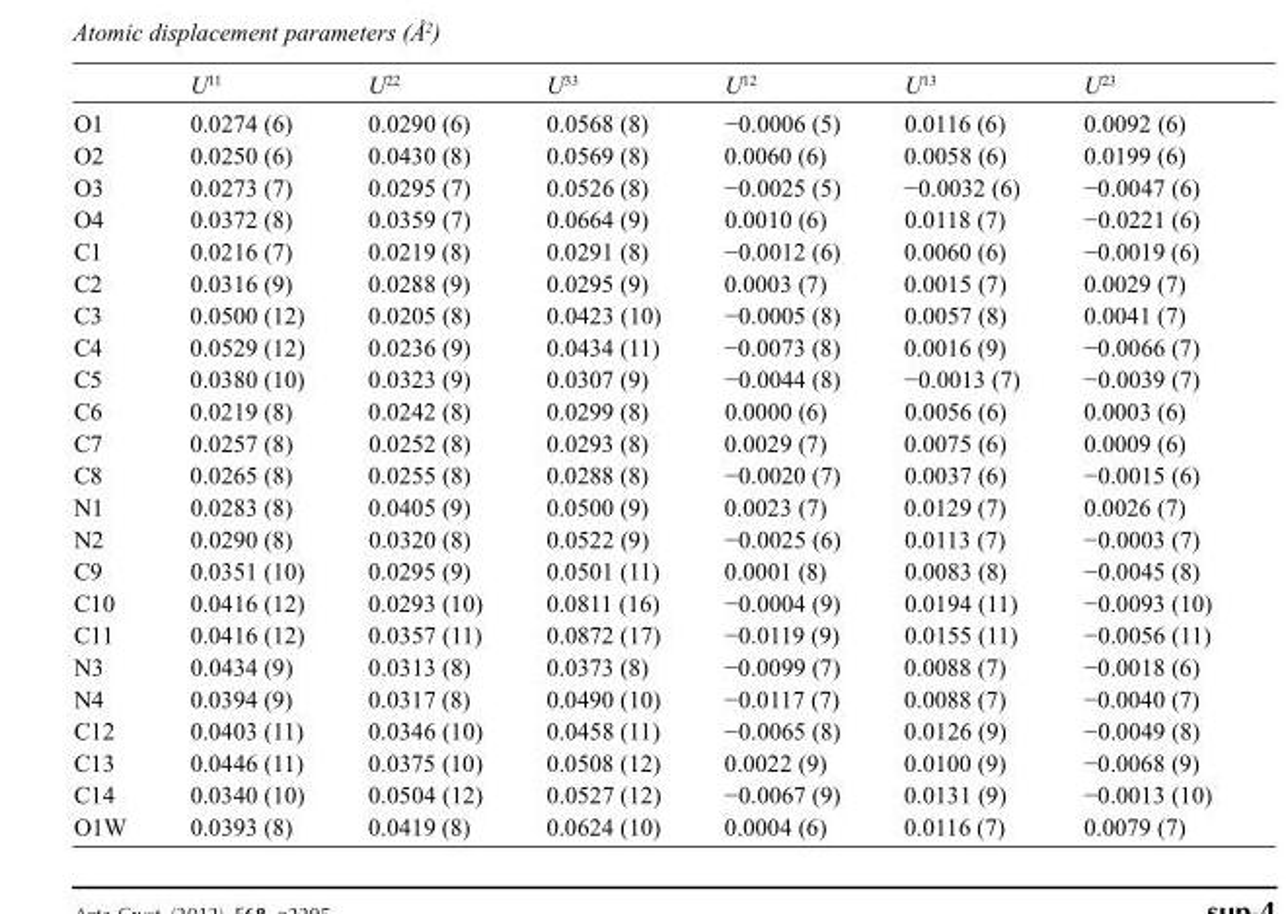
<table><thead><tr><td></td><td>U<sup>11</sup></td><td>U<sup>22</sup></td><td>U<sup>33</sup></td><td>U<sup>12</sup></td><td>U<sup>13</sup></td><td>U<sup>23</sup></td></tr></thead><tbody><tr><td>O1</td><td>0.0274 (6)</td><td>0.0290 (6)</td><td>0.0568 (8)</td><td>−0.0006 (5)</td><td>0.0116 (6)</td><td>0.0092 (6)</td></tr><tr><td>O2</td><td>0.0250 (6)</td><td>0.0430 (8)</td><td>0.0569 (8)</td><td>0.0060 (6)</td><td>0.0058 (6)</td><td>0.0199 (6)</td></tr><tr><td>O3</td><td>0.0273 (7)</td><td>0.0295 (7)</td><td>0.0526 (8)</td><td>−0.0025 (5)</td><td>−0.0032 (6)</td><td>−0.0047 (6)</td></tr><tr><td>O4</td><td>0.0372 (8)</td><td>0.0359 (7)</td><td>0.0664 (9)</td><td>0.0010 (6)</td><td>0.0118 (7)</td><td>−0.0221 (6)</td></tr><tr><td>C1</td><td>0.0216 (7)</td><td>0.0219 (8)</td><td>0.0291 (8)</td><td>−0.0012 (6)</td><td>0.0060 (6)</td><td>−0.0019 (6)</td></tr><tr><td>C2</td><td>0.0316 (9)</td><td>0.0288 (9)</td><td>0.0295 (9)</td><td>0.0003 (7)</td><td>0.0015 (7)</td><td>0.0029 (7)</td></tr><tr><td>C3</td><td>0.0500 (12)</td><td>0.0205 (8)</td><td>0.0423 (10)</td><td>−0.0005 (8)</td><td>0.0057 (8)</td><td>0.0041 (7)</td></tr><tr><td>C4</td><td>0.0529 (12)</td><td>0.0236 (9)</td><td>0.0434 (11)</td><td>−0.0073 (8)</td><td>0.0016 (9)</td><td>−0.0066 (7)</td></tr><tr><td>C5</td><td>0.0380 (10)</td><td>0.0323 (9)</td><td>0.0307 (9)</td><td>−0.0044 (8)</td><td>−0.0013 (7)</td><td>−0.0039 (7)</td></tr><tr><td>C6</td><td>0.0219 (8)</td><td>0.0242 (8)</td><td>0.0299 (8)</td><td>0.0000 (6)</td><td>0.0056 (6)</td><td>0.0003 (6)</td></tr><tr><td>C7</td><td>0.0257 (8)</td><td>0.0252 (8)</td><td>0.0293 (8)</td><td>0.0029 (7)</td><td>0.0075 (6)</td><td>0.0009 (6)</td></tr><tr><td>C8</td><td>0.0265 (8)</td><td>0.0255 (8)</td><td>0.0288 (8)</td><td>−0.0020 (7)</td><td>0.0037 (6)</td><td>−0.0015 (6)</td></tr><tr><td>N1</td><td>0.0283 (8)</td><td>0.0405 (9)</td><td>0.0500 (9)</td><td>0.0023 (7)</td><td>0.0129 (7)</td><td>0.0026 (7)</td></tr><tr><td>N2</td><td>0.0290 (8)</td><td>0.0320 (8)</td><td>0.0522 (9)</td><td>−0.0025 (6)</td><td>0.0113 (7)</td><td>−0.0003 (7)</td></tr><tr><td>C9</td><td>0.0351 (10)</td><td>0.0295 (9)</td><td>0.0501 (11)</td><td>0.0001 (8)</td><td>0.0083 (8)</td><td>−0.0045 (8)</td></tr><tr><td>C10</td><td>0.0416 (12)</td><td>0.0293 (10)</td><td>0.0811 (16)</td><td>−0.0004 (9)</td><td>0.0194 (11)</td><td>−0.0093 (10)</td></tr><tr><td>C11</td><td>0.0416 (12)</td><td>0.0357 (11)</td><td>0.0872 (17)</td><td>−0.0119 (9)</td><td>0.0155 (11)</td><td>−0.0056 (11)</td></tr><tr><td>N3</td><td>0.0434 (9)</td><td>0.0313 (8)</td><td>0.0373 (8)</td><td>−0.0099 (7)</td><td>0.0088 (7)</td><td>−0.0018 (6)</td></tr><tr><td>N4</td><td>0.0394 (9)</td><td>0.0317 (8)</td><td>0.0490 (10)</td><td>−0.0117 (7)</td><td>0.0088 (7)</td><td>−0.0040 (7)</td></tr><tr><td>C12</td><td>0.0403 (11)</td><td>0.0346 (10)</td><td>0.0458 (11)</td><td>−0.0065 (8)</td><td>0.0126 (9)</td><td>−0.0049 (8)</td></tr><tr><td>C13</td><td>0.0446 (11)</td><td>0.0375 (10)</td><td>0.0508 (12)</td><td>0.0022 (9)</td><td>0.0100 (9)</td><td>−0.0068 (9)</td></tr><tr><td>C14</td><td>0.0340 (10)</td><td>0.0504 (12)</td><td>0.0527 (12)</td><td>−0.0067 (9)</td><td>0.0131 (9)</td><td>−0.0013 (10)</td></tr><tr><td>O1W</td><td>0.0393 (8)</td><td>0.0419 (8)</td><td>0.0624 (10)</td><td>0.0004 (6)</td><td>0.0116 (7)</td><td>0.0079 (7)</td></tr></tbody></table>